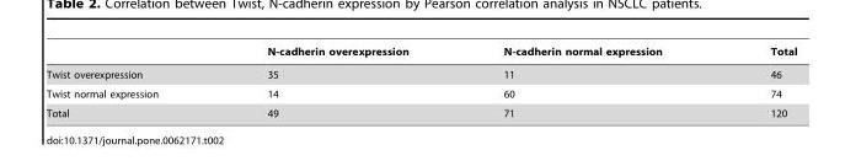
<table><thead><tr><td></td><td>N-cadherin overexpression</td><td>N-cadherin normal expression</td><td>Total</td></tr></thead><tbody><tr><td>Twist overexpression</td><td>35</td><td>11</td><td>46</td></tr><tr><td>Twist normal expression</td><td>14</td><td>60</td><td>74</td></tr><tr><td>Total</td><td>49</td><td>71</td><td>120</td></tr></tbody></table>